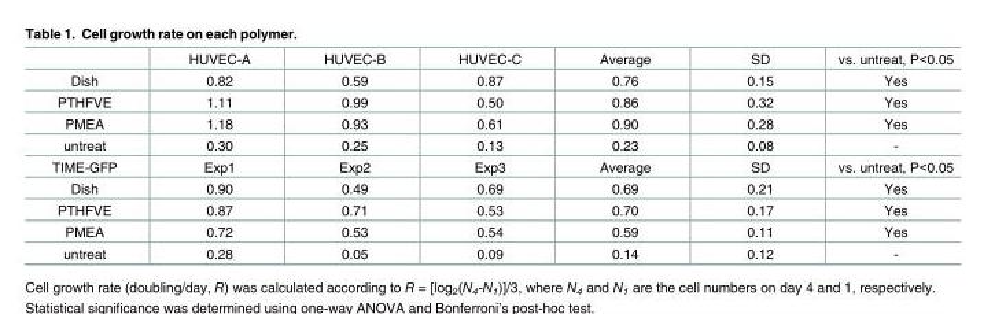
<table><thead><tr><td></td><td>HUVEC-A</td><td>HUVEC-B</td><td>HUVEC-C</td><td>Average</td><td>SD</td><td>vs. untreat, P&lt;0.05</td></tr></thead><tbody><tr><td>Dish</td><td>0.82</td><td>0.59</td><td>0.87</td><td>0.76</td><td>0.15</td><td>Yes</td></tr><tr><td>PTHFVE</td><td>1.11</td><td>0.99</td><td>0.50</td><td>0.86</td><td>0.32</td><td>Yes</td></tr><tr><td>PMEA</td><td>1.18</td><td>0.93</td><td>0.61</td><td>0.90</td><td>0.28</td><td>Yes</td></tr><tr><td>untreat</td><td>0.30</td><td>0.25</td><td>0.13</td><td>0.23</td><td>0.08</td><td>-</td></tr><tr><td>TIME-GFP</td><td>Exp1</td><td>Exp2</td><td>Exp3</td><td>Average</td><td>SD</td><td>vs. untreat, P&lt;0.05</td></tr><tr><td>Dish</td><td>0.90</td><td>0.49</td><td>0.69</td><td>0.69</td><td>0.21</td><td>Yes</td></tr><tr><td>PTHFVE</td><td>0.87</td><td>0.71</td><td>0.53</td><td>0.70</td><td>0.17</td><td>Yes</td></tr><tr><td>PMEA</td><td>0.72</td><td>0.53</td><td>0.54</td><td>0.59</td><td>0.11</td><td>Yes</td></tr><tr><td>untreat</td><td>0.28</td><td>0.05</td><td>0.09</td><td>0.14</td><td>0.12</td><td>-</td></tr></tbody></table>